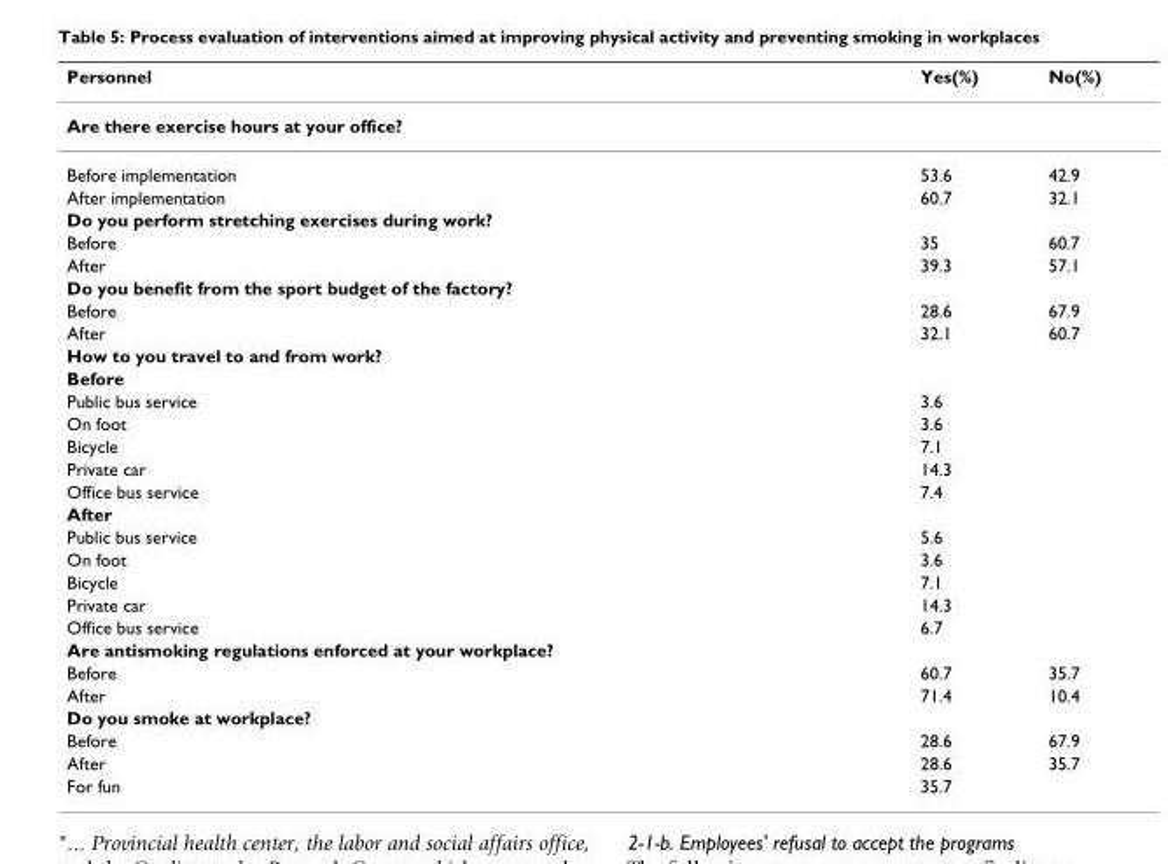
<table><thead><tr><td>Personnel</td><td>Yes(%)</td><td>No(%)</td></tr></thead><tbody><tr><td colspan="3">Are there exercise hours at your office?</td></tr><tr><td>Before implementation</td><td>53.6</td><td>42.9</td></tr><tr><td>After implementation</td><td>60.7</td><td>32.1</td></tr><tr><td colspan="3">Do you perform stretching exercises during work?</td></tr><tr><td>Before</td><td>35</td><td>60.7</td></tr><tr><td>After</td><td>39.3</td><td>57.1</td></tr><tr><td colspan="3">Do you benefit from the sport budget of the factory?</td></tr><tr><td>Before</td><td>28.6</td><td>67.9</td></tr><tr><td>After</td><td>32.1</td><td>60.7</td></tr><tr><td colspan="3">How to you travel to and from work?</td></tr><tr><td colspan="3">Before</td></tr><tr><td>Public bus service</td><td>3.6</td><td></td></tr><tr><td>On foot</td><td>3.6</td><td></td></tr><tr><td>Bicycle</td><td>7.1</td><td></td></tr><tr><td>Private car</td><td>14.3</td><td></td></tr><tr><td>Office bus service</td><td>7.4</td><td></td></tr><tr><td colspan="3">After</td></tr><tr><td>Public bus service</td><td>5.6</td><td></td></tr><tr><td>On foot</td><td>3.6</td><td></td></tr><tr><td>Bicycle</td><td>7.1</td><td></td></tr><tr><td>Private car</td><td>14.3</td><td></td></tr><tr><td>Office bus service</td><td>6.7</td><td></td></tr><tr><td colspan="3">Are antismoking regulations enforced at your workplace?</td></tr><tr><td>Before</td><td>60.7</td><td>35.7</td></tr><tr><td>After</td><td>71.4</td><td>10.4</td></tr><tr><td colspan="3">Do you smoke at workplace?</td></tr><tr><td>Before</td><td>28.6</td><td>67.9</td></tr><tr><td>After</td><td>28.6</td><td>35.7</td></tr><tr><td>For fun</td><td>35.7</td><td></td></tr></tbody></table>